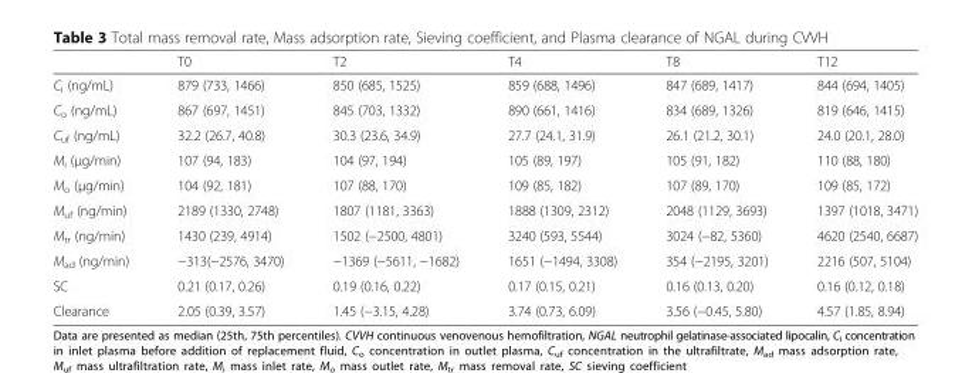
<table><thead><tr><td></td><td>T0</td><td>T2</td><td>T4</td><td>T8</td><td>T12</td></tr></thead><tbody><tr><td>C<sub>i</sub> (ng/mL)</td><td>879 (733, 1466)</td><td>850 (685, 1525)</td><td>859 (688, 1496)</td><td>847 (689, 1417)</td><td>844 (694, 1405)</td></tr><tr><td>C<sub>o</sub> (ng/mL)</td><td>867 (697, 1451)</td><td>845 (703, 1332)</td><td>890 (661, 1416)</td><td>834 (689, 1326)</td><td>819 (646, 1415)</td></tr><tr><td>C<sub>uf</sub> (ng/mL)</td><td>32.2 (26.7, 40.8)</td><td>30.3 (23.6, 34.9)</td><td>27.7 (24.1, 31.9)</td><td>26.1 (21.2, 30.1)</td><td>24.0 (20.1, 28.0)</td></tr><tr><td>M<sub>i</sub> (μg/min)</td><td>107 (94, 183)</td><td>104 (97, 194)</td><td>105 (89, 197)</td><td>105 (91, 182)</td><td>110 (88, 180)</td></tr><tr><td>M<sub>o</sub> (μg/min)</td><td>104 (92, 181)</td><td>107 (88, 170)</td><td>109 (85, 182)</td><td>107 (89, 170)</td><td>109 (85, 172)</td></tr><tr><td>M<sub>uf</sub> (ng/min)</td><td>2189 (1330, 2748)</td><td>1807 (1181, 3363)</td><td>1888 (1309, 2312)</td><td>2048 (1129, 3693)</td><td>1397 (1018, 3471)</td></tr><tr><td>M<sub>tr</sub> (ng/min)</td><td>1430 (239, 4914)</td><td>1502 (−2500, 4801)</td><td>3240 (593, 5544)</td><td>3024 (−82, 5360)</td><td>4620 (2540, 6687)</td></tr><tr><td>M<sub>ad</sub> (ng/min)</td><td>−313(−2576, 3470)</td><td>−1369 (−5611, −1682)</td><td>1651 (−1494, 3308)</td><td>354 (−2195, 3201)</td><td>2216 (507, 5104)</td></tr><tr><td>SC</td><td>0.21 (0.17, 0.26)</td><td>0.19 (0.16, 0.22)</td><td>0.17 (0.15, 0.21)</td><td>0.16 (0.13, 0.20)</td><td>0.16 (0.12, 0.18)</td></tr><tr><td>Clearance</td><td>2.05 (0.39, 3.57)</td><td>1.45 (−3.15, 4.28)</td><td>3.74 (0.73, 6.09)</td><td>3.56 (−0.45, 5.80)</td><td>4.57 (1.85, 8.94)</td></tr></tbody></table>